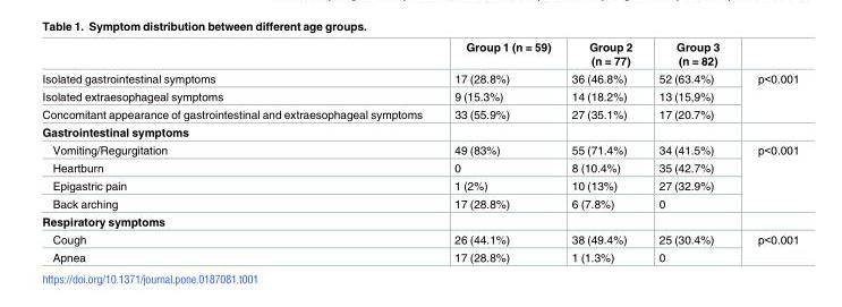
<table><thead><tr><td></td><td>Group 1 (n = 59)</td><td>Group 2 (n = 77)</td><td>Group 3 (n = 82)</td><td></td></tr></thead><tbody><tr><td>Isolated gastrointestinal symptoms</td><td>17 (28.8%)</td><td>36 (46.8%)</td><td>52 (63.4%)</td><td rowspan="3">p&lt;0.001</td></tr><tr><td>Isolated extraesophageal symptoms</td><td>9 (15.3%)</td><td>14 (18.2%)</td><td>13 (15,9%)</td></tr><tr><td>Concomitant appearance of gastrointestinal and extraesophageal symptoms</td><td>33 (55.9%)</td><td>27 (35.1%)</td><td>17 (20.7%)</td></tr><tr><td colspan="5">Gastrointestinal symptoms</td></tr><tr><td>Vomiting/Regurgitation</td><td>49 (83%)</td><td>55 (71.4%)</td><td>34 (41.5%)</td><td rowspan="4">p&lt;0.001</td></tr><tr><td>Heartburn</td><td>0</td><td>8 (10.4%)</td><td>35 (42.7%)</td></tr><tr><td>Epigastric pain</td><td>1 (2%)</td><td>10 (13%)</td><td>27 (32.9%)</td></tr><tr><td>Back arching</td><td>17 (28.8%)</td><td>6 (7.8%)</td><td>0</td></tr><tr><td colspan="5">Respiratory symptoms</td></tr><tr><td>Cough</td><td>26 (44.1%)</td><td>38 (49.4%)</td><td>25 (30.4%)</td><td rowspan="2">p&lt;0.001</td></tr><tr><td>Apnea</td><td>17 (28.8%)</td><td>1 (1.3%)</td><td>0</td></tr></tbody></table>